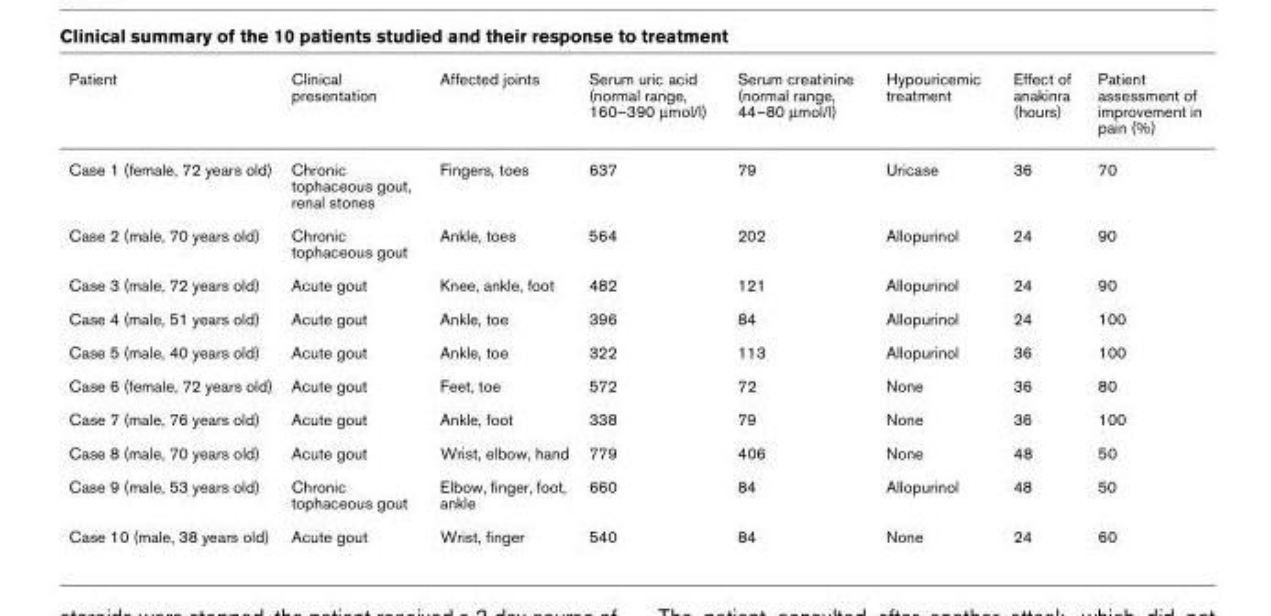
<table><thead><tr><td>Patient</td><td>Clinical presentation</td><td>Affected joints</td><td>Serum uric acid (normal range, 160–390 μmol/l)</td><td>Serum creatinine (normal range, 44–80 μmol/l)</td><td>Hypouricemic treatment</td><td>Effect of anakinra (hours)</td><td>Patient assessment of improvement in pain (%)</td></tr></thead><tbody><tr><td>Case 1 (female, 72 years old)</td><td>Chronic tophaceous gout, renal stones</td><td>Fingers, toes</td><td>637</td><td>79</td><td>Uricase</td><td>36</td><td>70</td></tr><tr><td>Case 2 (male, 70 years old)</td><td>Chronic tophaceous gout</td><td>Ankle, toes</td><td>564</td><td>202</td><td>Allopurinol</td><td>24</td><td>90</td></tr><tr><td>Case 3 (male, 72 years old)</td><td>Acute gout</td><td>Knee, ankle, foot</td><td>482</td><td>121</td><td>Allopurinol</td><td>24</td><td>90</td></tr><tr><td>Case 4 (male, 51 years old)</td><td>Acute gout</td><td>Ankle, toe</td><td>396</td><td>84</td><td>Allopurinol</td><td>24</td><td>100</td></tr><tr><td>Case 5 (male, 40 years old)</td><td>Acute gout</td><td>Ankle, toe</td><td>322</td><td>113</td><td>Allopurinol</td><td>36</td><td>100</td></tr><tr><td>Case 6 (female, 72 years old)</td><td>Acute gout</td><td>Feet, toe</td><td>572</td><td>72</td><td>None</td><td>36</td><td>80</td></tr><tr><td>Case 7 (male, 76 years old)</td><td>Acute gout</td><td>Ankle, foot</td><td>338</td><td>79</td><td>None</td><td>36</td><td>100</td></tr><tr><td>Case 8 (male, 70 years old)</td><td>Acute gout</td><td>Wrist, elbow, hand</td><td>779</td><td>406</td><td>None</td><td>48</td><td>50</td></tr><tr><td>Case 9 (male, 53 years old)</td><td>Chronic tophaceous gout</td><td>Elbow, finger, foot, ankle</td><td>660</td><td>84</td><td>Allopurinol</td><td>48</td><td>50</td></tr><tr><td>Case 10 (male, 38 years old)</td><td>Acute gout</td><td>Wrist, finger</td><td>540</td><td>84</td><td>None</td><td>24</td><td>60</td></tr></tbody></table>